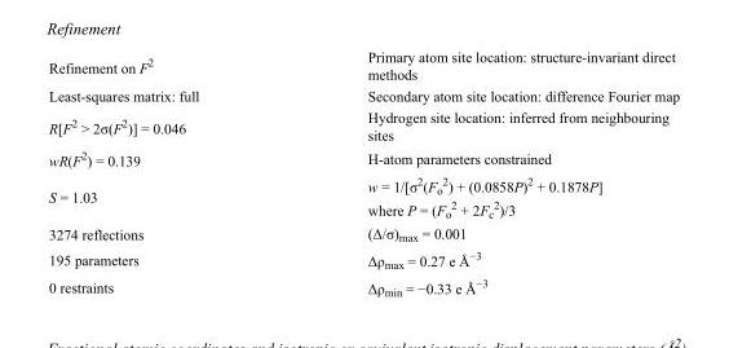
<table><tbody><tr><td>Refinement on F<sup>2</sup></td><td>Primary atom site location: structure-invariant direct methods</td></tr><tr><td>Least-squares matrix: full</td><td>Secondary atom site location: difference Fourier map</td></tr><tr><td>R[F<sup>2</sup> &gt; 2σ(F<sup>2</sup>)] = 0.046</td><td>Hydrogen site location: inferred from neighbouring sites</td></tr><tr><td>wR(F<sup>2</sup>) = 0.139</td><td>H-atom parameters constrained</td></tr><tr><td>S = 1.03</td><td>w = 1/[σ<sup>2</sup>(F<sub>o</sub> <sup>2</sup>) + (0.0858P)<sup>2</sup> + 0.1878P] where P = (F<sub>o</sub> <sup>2</sup> + 2F<sub>c</sub> <sup>2</sup>)/3</td></tr><tr><td>3274 reflections</td><td>(Δ/σ)<sub>max</sub> = 0.001</td></tr><tr><td>195 parameters</td><td>Δρ<sub>max</sub> = 0.27 e Å<sup>−3</sup></td></tr><tr><td>0 restraints</td><td>Δρ<sub>min</sub> = −0.33 e Å<sup>−3</sup></td></tr></tbody></table>